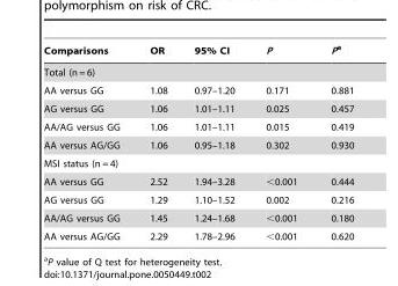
<table><thead><tr><td>Comparisons</td><td>OR</td><td>95% CI</td><td>P</td><td>Pa</td></tr></thead><tbody><tr><td colspan="5">Total (n = 6)</td></tr><tr><td>AA versus GG</td><td>1.08</td><td>0.97–1.20</td><td>0.171</td><td>0.881</td></tr><tr><td>AG versus GG</td><td>1.06</td><td>1.01–1.11</td><td>0.025</td><td>0.457</td></tr><tr><td>AA/AG versus GG</td><td>1.06</td><td>1.01–1.11</td><td>0.015</td><td>0.419</td></tr><tr><td>AA versus AG/GG</td><td>1.06</td><td>0.95–1.18</td><td>0.302</td><td>0.930</td></tr><tr><td colspan="5">MSI status (n = 4)</td></tr><tr><td>AA versus GG</td><td>2.52</td><td>1.94–3.28</td><td>&lt;0.001</td><td>0.444</td></tr><tr><td>AG versus GG</td><td>1.29</td><td>1.10–1.52</td><td>0.002</td><td>0.216</td></tr><tr><td>AA/AG versus GG</td><td>1.45</td><td>1.24–1.68</td><td>&lt;0.001</td><td>0.180</td></tr><tr><td>AA versus AG/GG</td><td>2.29</td><td>1.78–2.96</td><td>&lt;0.001</td><td>0.620</td></tr></tbody></table>